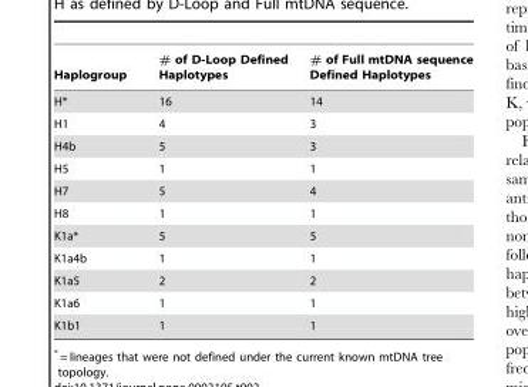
<table><thead><tr><td>Haplogroup</td><td># of D-Loop Defined Haplotypes</td><td># of Full mtDNA sequence Defined Haplotypes</td></tr></thead><tbody><tr><td>H*</td><td>16</td><td>14</td></tr><tr><td>H1</td><td>4</td><td>3</td></tr><tr><td>H4b</td><td>5</td><td>3</td></tr><tr><td>H5</td><td>1</td><td>1</td></tr><tr><td>H7</td><td>5</td><td>4</td></tr><tr><td>H8</td><td>1</td><td>1</td></tr><tr><td>K1a*</td><td>5</td><td>5</td></tr><tr><td>K1a4b</td><td>1</td><td>1</td></tr><tr><td>K1a5</td><td>2</td><td>2</td></tr><tr><td>K1a6</td><td>1</td><td>1</td></tr><tr><td>K1b1</td><td>1</td><td>1</td></tr></tbody></table>